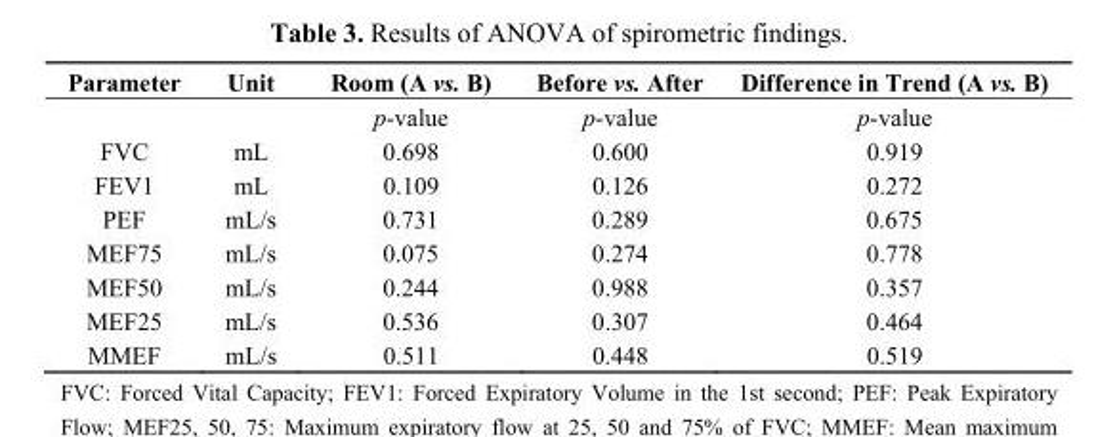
<table><thead><tr><td>Parameter</td><td>Unit</td><td>Room (A vs. B)</td><td>Before vs. After</td><td>Difference in Trend (A vs. B)</td></tr></thead><tbody><tr><td></td><td></td><td>p-value</td><td>p-value</td><td>p-value</td></tr><tr><td>FVC</td><td>mL</td><td>0.698</td><td>0.600</td><td>0.919</td></tr><tr><td>FEV1</td><td>mL</td><td>0.109</td><td>0.126</td><td>0.272</td></tr><tr><td>PEF</td><td>mL/s</td><td>0.731</td><td>0.289</td><td>0.675</td></tr><tr><td>MEF75</td><td>mL/s</td><td>0.075</td><td>0.274</td><td>0.778</td></tr><tr><td>MEF50</td><td>mL/s</td><td>0.244</td><td>0.988</td><td>0.357</td></tr><tr><td>MEF25</td><td>mL/s</td><td>0.536</td><td>0.307</td><td>0.464</td></tr><tr><td>MMEF</td><td>mL/s</td><td>0.511</td><td>0.448</td><td>0.519</td></tr></tbody></table>